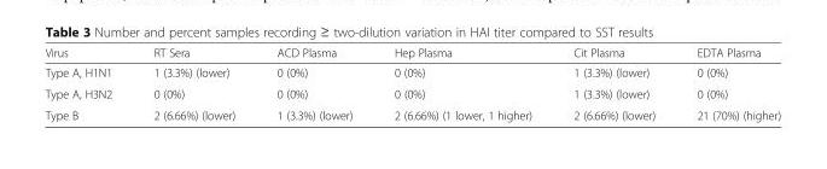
<table><thead><tr><td>Virus</td><td>RT Sera</td><td>ACD Plasma</td><td>Hep Plasma</td><td>Cit Plasma</td><td>EDTA Plasma</td></tr></thead><tbody><tr><td>Type A, H1N1</td><td>1 (3.3%) (lower)</td><td>0 (0%)</td><td>0 (0%)</td><td>1 (3.3%) (lower)</td><td>0 (0%)</td></tr><tr><td>Type A, H3N2</td><td>0 (0%)</td><td>0 (0%)</td><td>0 (0%)</td><td>1 (3.3%) (lower)</td><td>0 (0%)</td></tr><tr><td>Type B</td><td>2 (6.66%) (lower)</td><td>1 (3.3%) (lower)</td><td>2 (6.66%) (1 lower, 1 higher)</td><td>2 (6.66%) (lower)</td><td>21 (70%) (higher)</td></tr></tbody></table>